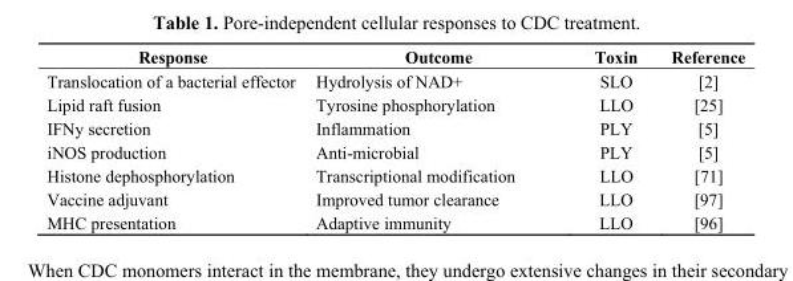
<table><thead><tr><td>Response</td><td>Outcome</td><td>Toxin</td><td>Reference</td></tr></thead><tbody><tr><td>Translocation of a bacterial effector</td><td>Hydrolysis of NAD+</td><td>SLO</td><td>[2]</td></tr><tr><td>Lipid raft fusion</td><td>Tyrosine phosphorylation</td><td>LLO</td><td>[25]</td></tr><tr><td>IFNy secretion</td><td>Inflammation</td><td>PLY</td><td>[5]</td></tr><tr><td>iNOS production</td><td>Anti-microbial</td><td>PLY</td><td>[5]</td></tr><tr><td>Histone dephosphorylation</td><td>Transcriptional modification</td><td>LLO</td><td>[71]</td></tr><tr><td>Vaccine adjuvant</td><td>Improved tumor clearance</td><td>LLO</td><td>[97]</td></tr><tr><td>MHC presentation</td><td>Adaptive immunity</td><td>LLO</td><td>[96]</td></tr></tbody></table>